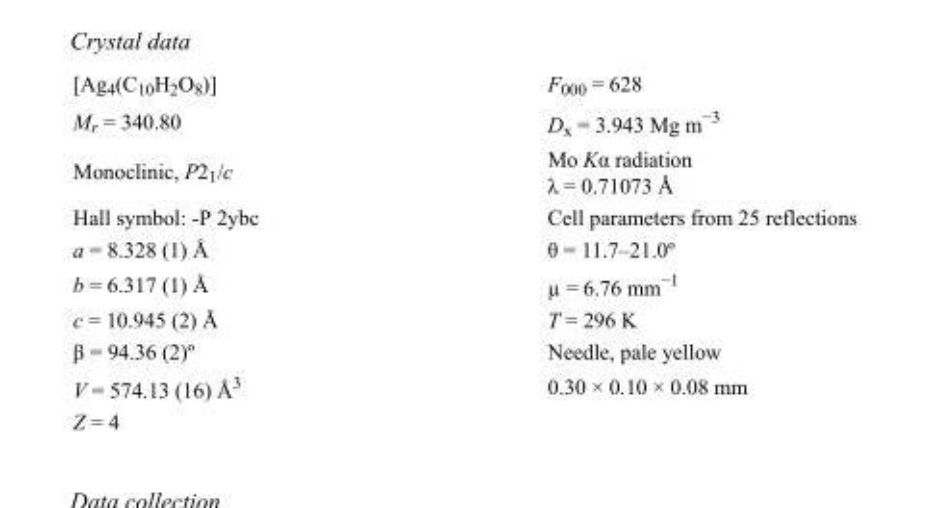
<table><tbody><tr><td>[Ag<sub>4</sub>(C<sub>10</sub>H<sub>2</sub>O<sub>8</sub>)]</td><td>F000 = 628</td></tr><tr><td>M<sub>r</sub> = 340.80</td><td>D<sub>x</sub> = 3.943 Mg m<sup>−3</sup></td></tr><tr><td>Monoclinic, P2<sub>1</sub>/c</td><td>Mo Kα radiation λ = 0.71073 Å</td></tr><tr><td>Hall symbol: -P 2ybc</td><td>Cell parameters from 25 reflections</td></tr><tr><td>a = 8.328 (1) Å</td><td>θ = 11.7–21.0º</td></tr><tr><td>b = 6.317 (1) Å</td><td>µ = 6.76 mm<sup>−1</sup></td></tr><tr><td>c = 10.945 (2) Å</td><td>T = 296 K</td></tr><tr><td>β = 94.36 (2)º</td><td>Needle, pale yellow</td></tr><tr><td>V = 574.13 (16) Å<sup>3</sup></td><td>0.30 × 0.10 × 0.08 mm</td></tr><tr><td>Z = 4</td><td></td></tr></tbody></table>